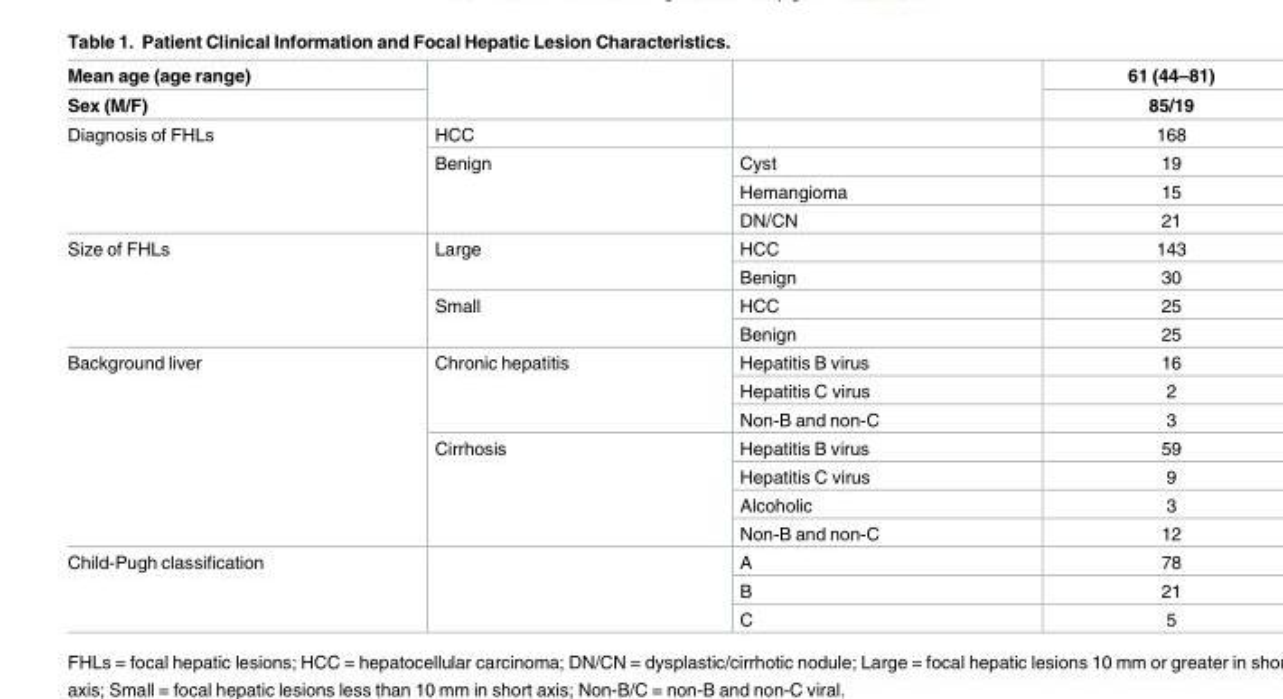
<table><thead><tr><td rowspan="2">Mean age (age range) Sex (M/F)</td><td rowspan="2"></td><td rowspan="2"></td><td rowspan="2">61 (44–81) 85/19</td></tr><tr></tr></thead><tbody><tr><td rowspan="4">Diagnosis of FHLs</td><td>HCC</td><td></td><td>168</td></tr><tr><td rowspan="3">Benign</td><td>Cyst</td><td>19</td></tr><tr><td>Hemangioma</td><td>15</td></tr><tr><td>DN/CN</td><td>21</td></tr><tr><td rowspan="4">Size of FHLs</td><td rowspan="2">Large</td><td>HCC</td><td>143</td></tr><tr><td>Benign</td><td>30</td></tr><tr><td rowspan="2">Small</td><td>HCC</td><td>25</td></tr><tr><td>Benign</td><td>25</td></tr><tr><td rowspan="7">Background liver</td><td rowspan="3">Chronic hepatitis</td><td>Hepatitis B virus</td><td>16</td></tr><tr><td>Hepatitis C virus</td><td>2</td></tr><tr><td>Non-B and non-C</td><td>3</td></tr><tr><td rowspan="4">Cirrhosis</td><td>Hepatitis B virus</td><td>59</td></tr><tr><td>Hepatitis C virus</td><td>9</td></tr><tr><td>Alcoholic</td><td>3</td></tr><tr><td>Non-B and non-C</td><td>12</td></tr><tr><td rowspan="3">Child-Pugh classification</td><td rowspan="3"></td><td>A</td><td>78</td></tr><tr><td>B</td><td>21</td></tr><tr><td>C</td><td>5</td></tr></tbody></table>